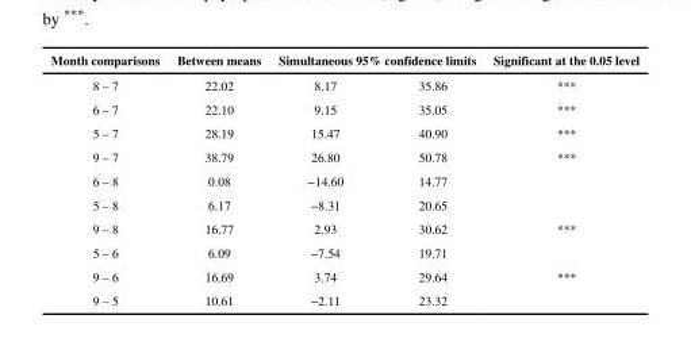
<table><thead><tr><td rowspan="2">Month comparisons 8 – 7</td><td rowspan="2">Between means 22.02</td><td colspan="2">Simultaneous 95% confidence limits</td><td rowspan="2">Significant at the 0.05 level ***</td></tr><tr><td>8.17</td><td>35.86</td></tr></thead><tbody><tr><td>6 – 7</td><td>22.10</td><td>9.15</td><td>35.05</td><td>***</td></tr><tr><td>5 – 7</td><td>28.19</td><td>15.47</td><td>40.90</td><td>***</td></tr><tr><td>9 – 7</td><td>38.79</td><td>26.80</td><td>50.78</td><td>***</td></tr><tr><td>6 – 8</td><td>0.08</td><td>−14.60</td><td>14.77</td><td></td></tr><tr><td>5 – 8</td><td>6.17</td><td>−8.31</td><td>20.65</td><td></td></tr><tr><td>9 – 8</td><td>16.77</td><td>2.93</td><td>30.62</td><td>***</td></tr><tr><td>5 – 6</td><td>6.09</td><td>−7.54</td><td>19.71</td><td></td></tr><tr><td>9 – 6</td><td>16.69</td><td>3.74</td><td>29.64</td><td>***</td></tr><tr><td>9 – 5</td><td>10.61</td><td>−2.11</td><td>23.32</td><td></td></tr></tbody></table>